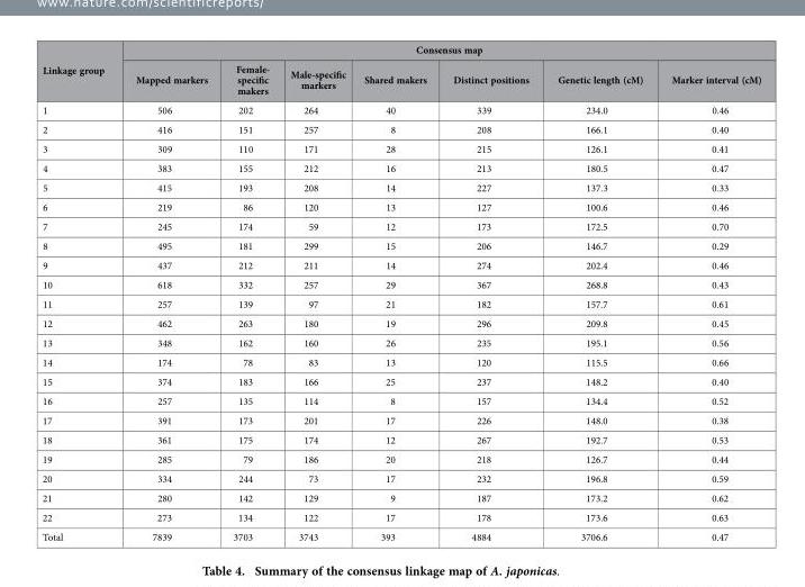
<table><thead><tr><td rowspan="2">Linkage group</td><td colspan="7">Consensus map</td></tr><tr><td>Mapped markers</td><td>Female- specific makers</td><td>Male-specific markers</td><td>Shared makers</td><td>Distinct positions</td><td>Genetic length (cM)</td><td>Marker interval (cM)</td></tr></thead><tbody><tr><td>1</td><td>506</td><td>202</td><td>264</td><td>40</td><td>339</td><td>234.0</td><td>0.46</td></tr><tr><td>2</td><td>416</td><td>151</td><td>257</td><td>8</td><td>208</td><td>166.1</td><td>0.40</td></tr><tr><td>3</td><td>309</td><td>110</td><td>171</td><td>28</td><td>215</td><td>126.1</td><td>0.41</td></tr><tr><td>4</td><td>383</td><td>155</td><td>212</td><td>16</td><td>213</td><td>180.5</td><td>0.47</td></tr><tr><td>5</td><td>415</td><td>193</td><td>208</td><td>14</td><td>227</td><td>137.3</td><td>0.33</td></tr><tr><td>6</td><td>219</td><td>86</td><td>120</td><td>13</td><td>127</td><td>100.6</td><td>0.46</td></tr><tr><td>7</td><td>245</td><td>174</td><td>59</td><td>12</td><td>173</td><td>172.5</td><td>0.70</td></tr><tr><td>8</td><td>495</td><td>181</td><td>299</td><td>15</td><td>206</td><td>146.7</td><td>0.29</td></tr><tr><td>9</td><td>437</td><td>212</td><td>211</td><td>14</td><td>274</td><td>202.4</td><td>0.46</td></tr><tr><td>10</td><td>618</td><td>332</td><td>257</td><td>29</td><td>367</td><td>268.8</td><td>0.43</td></tr><tr><td>11</td><td>257</td><td>139</td><td>97</td><td>21</td><td>182</td><td>157.7</td><td>0.61</td></tr><tr><td>12</td><td>462</td><td>263</td><td>180</td><td>19</td><td>296</td><td>209.8</td><td>0.45</td></tr><tr><td>13</td><td>348</td><td>162</td><td>160</td><td>26</td><td>235</td><td>195.1</td><td>0.56</td></tr><tr><td>14</td><td>174</td><td>78</td><td>83</td><td>13</td><td>120</td><td>115.5</td><td>0.66</td></tr><tr><td>15</td><td>374</td><td>183</td><td>166</td><td>25</td><td>237</td><td>148.2</td><td>0.40</td></tr><tr><td>16</td><td>257</td><td>135</td><td>114</td><td>8</td><td>157</td><td>134.4</td><td>0.52</td></tr><tr><td>17</td><td>391</td><td>173</td><td>201</td><td>17</td><td>226</td><td>148.0</td><td>0.38</td></tr><tr><td>18</td><td>361</td><td>175</td><td>174</td><td>12</td><td>267</td><td>192.7</td><td>0.53</td></tr><tr><td>19</td><td>285</td><td>79</td><td>186</td><td>20</td><td>218</td><td>126.7</td><td>0.44</td></tr><tr><td>20</td><td>334</td><td>244</td><td>73</td><td>17</td><td>232</td><td>196.8</td><td>0.59</td></tr><tr><td>21</td><td>280</td><td>142</td><td>129</td><td>9</td><td>187</td><td>173.2</td><td>0.62</td></tr><tr><td>22</td><td>273</td><td>134</td><td>122</td><td>17</td><td>178</td><td>173.6</td><td>0.63</td></tr><tr><td>Total</td><td>7839</td><td>3703</td><td>3743</td><td>393</td><td>4884</td><td>3706.6</td><td>0.47</td></tr></tbody></table>